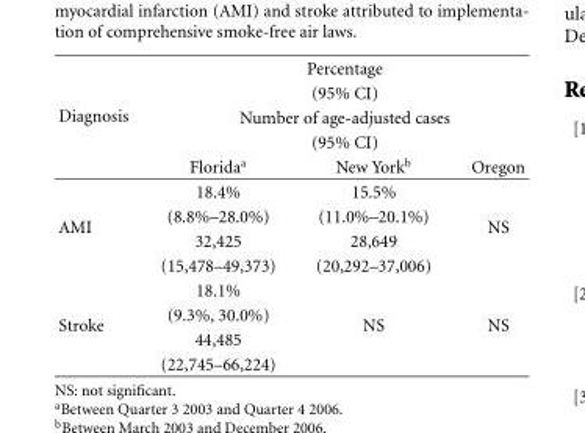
<table><thead><tr><td rowspan="5">Diagnosis</td><td rowspan="4" colspan="3">Percentage (95% CI) Number of age-adjusted cases (95% CI)</td></tr><tr></tr><tr></tr><tr></tr><tr><td>Florida<sup>a</sup></td><td>New York<sup>b</sup></td><td>Oregon</td></tr></thead><tbody><tr><td rowspan="4">AMI</td><td>18.4%</td><td>15.5%</td><td rowspan="4">NS</td></tr><tr><td>(8.8%–28.0%)</td><td>(11.0%–20.1%)</td></tr><tr><td>32,425</td><td>28,649</td></tr><tr><td>(15,478–49,373)</td><td>(20,292–37,006)</td></tr><tr><td rowspan="4">Stroke</td><td>18.1%</td><td rowspan="4">NS</td><td rowspan="4">NS</td></tr><tr><td>(9.3%, 30.0%)</td></tr><tr><td>44,485</td></tr><tr><td>(22,745–66,224)</td></tr></tbody></table>